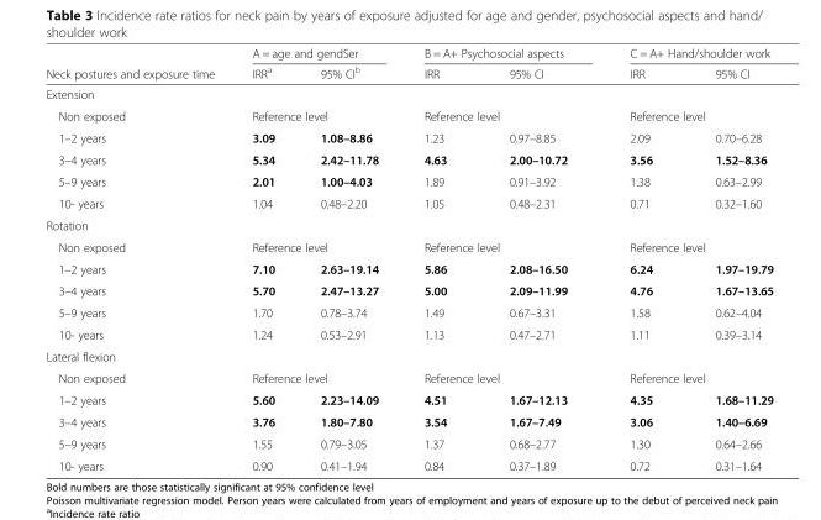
<table><thead><tr><td rowspan="2">Neck postures and exposure time</td><td colspan="2">A = age and gendSer</td><td colspan="2">B = A+ Psychosocial aspects</td><td colspan="2">C = A+ Hand/shoulder work</td></tr><tr><td>IRR<sup>a</sup></td><td>95% CI<sup>b</sup></td><td>IRR</td><td>95% CI</td><td>IRR</td><td>95% CI</td></tr></thead><tbody><tr><td colspan="7">Extension</td></tr><tr><td>Non exposed</td><td colspan="2">Reference level</td><td colspan="2">Reference level</td><td colspan="2">Reference level</td></tr><tr><td>1–2 years</td><td>3.09</td><td>1.08–8.86</td><td>1.23</td><td>0.97–8.85</td><td>2.09</td><td>0.70–6.28</td></tr><tr><td>3–4 years</td><td>5.34</td><td>2.42–11.78</td><td>4.63</td><td>2.00–10.72</td><td>3.56</td><td>1.52–8.36</td></tr><tr><td>5–9 years</td><td>2.01</td><td>1.00–4.03</td><td>1.89</td><td>0.91–3.92</td><td>1.38</td><td>0.63–2.99</td></tr><tr><td>10- years</td><td>1.04</td><td>0.48–2.20</td><td>1.05</td><td>0.48–2.31</td><td>0.71</td><td>0.32–1.60</td></tr><tr><td colspan="7">Rotation</td></tr><tr><td>Non exposed</td><td colspan="2">Reference level</td><td colspan="2">Reference level</td><td colspan="2">Reference level</td></tr><tr><td>1–2 years</td><td>7.10</td><td>2.63–19.14</td><td>5.86</td><td>2.08–16.50</td><td>6.24</td><td>1.97–19.79</td></tr><tr><td>3–4 years</td><td>5.70</td><td>2.47–13.27</td><td>5.00</td><td>2.09–11.99</td><td>4.76</td><td>1.67–13.65</td></tr><tr><td>5–9 years</td><td>1.70</td><td>0.78–3.74</td><td>1.49</td><td>0.67–3.31</td><td>1.58</td><td>0.62–4.04</td></tr><tr><td>10- years</td><td>1.24</td><td>0.53–2.91</td><td>1.13</td><td>0.47–2.71</td><td>1.11</td><td>0.39–3.14</td></tr><tr><td colspan="7">Lateral flexion</td></tr><tr><td>Non exposed</td><td colspan="2">Reference level</td><td colspan="2">Reference level</td><td colspan="2">Reference level</td></tr><tr><td>1–2 years</td><td>5.60</td><td>2.23–14.09</td><td>4.51</td><td>1.67–12.13</td><td>4.35</td><td>1.68–11.29</td></tr><tr><td>3–4 years</td><td>3.76</td><td>1.80–7.80</td><td>3.54</td><td>1.67–7.49</td><td>3.06</td><td>1.40–6.69</td></tr><tr><td>5–9 years</td><td>1.55</td><td>0.79–3.05</td><td>1.37</td><td>0.68–2.77</td><td>1.30</td><td>0.64–2.66</td></tr><tr><td>10- years</td><td>0.90</td><td>0.41–1.94</td><td>0.84</td><td>0.37–1.89</td><td>0.72</td><td>0.31–1.64</td></tr></tbody></table>